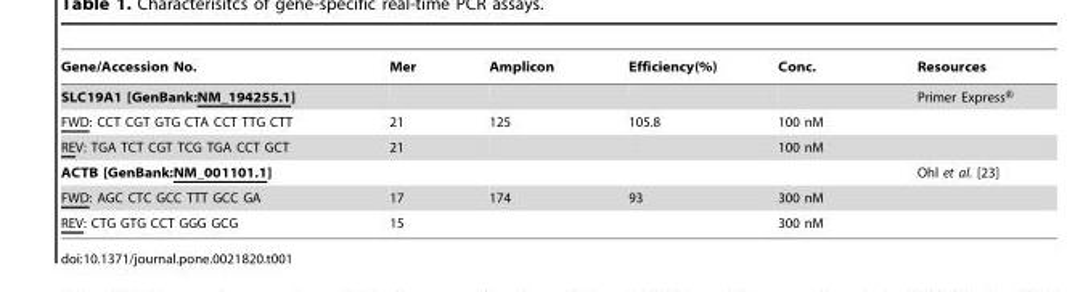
<table><thead><tr><td>Gene/Accession No.</td><td>Mer</td><td>Amplicon</td><td>Efficiency(%)</td><td>Conc.</td><td>Resources</td></tr></thead><tbody><tr><td>SLC19A1 [GenBank:NM_194255.1]</td><td></td><td></td><td></td><td></td><td>Primer Express®</td></tr><tr><td>FWD: CCT CGT GTG CTA CCT TTG CTT</td><td>21</td><td>125</td><td>105.8</td><td>100 nM</td><td></td></tr><tr><td>REV: TGA TCT CGT TCG TGA CCT GCT</td><td>21</td><td></td><td></td><td>100 nM</td><td></td></tr><tr><td>ACTB [GenBank:NM_001101.1]</td><td></td><td></td><td></td><td></td><td>Ohl et al. [23]</td></tr><tr><td>FWD: AGC CTC GCC TTT GCC GA</td><td>17</td><td>174</td><td>93</td><td>300 nM</td><td></td></tr><tr><td>REV: CTG GTG CCT GGG GCG</td><td>15</td><td></td><td></td><td>300 nM</td><td></td></tr></tbody></table>